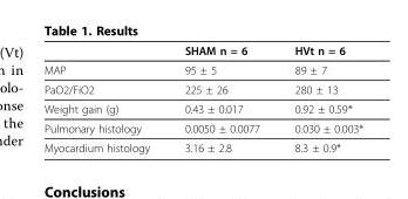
<table><thead><tr><td></td><td>SHAM n = 6</td><td>HVt n = 6</td></tr></thead><tbody><tr><td>MAP</td><td>95 ± 5</td><td>89 ± 7</td></tr><tr><td>PaO2/FiO2</td><td>225 ± 26</td><td>280 ± 13</td></tr><tr><td>Weight gain (g)</td><td>0.43 ± 0.017</td><td>0.92 ± 0.59*</td></tr><tr><td>Pulmonary histology</td><td>0.0050 ± 0.0077</td><td>0.030 ± 0.003*</td></tr><tr><td>Myocardium histology</td><td>3.16 ± 2.8</td><td>8.3 ± 0.9*</td></tr></tbody></table>